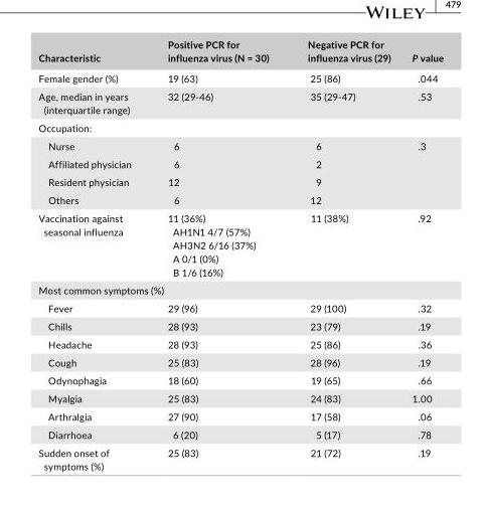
<table><thead><tr><td>Characteristic</td><td>Positive PCR for influenza virus (N = 30)</td><td>Negative PCR for influenza virus (29)</td><td>P value</td></tr></thead><tbody><tr><td>Female gender (%)</td><td>19 (63)</td><td>25 (86)</td><td>.044</td></tr><tr><td>Age, median in years (interquartile range)</td><td>32 (29- 46)</td><td>35 (29- 47)</td><td>.53</td></tr><tr><td colspan="4">Occupation:</td></tr><tr><td>Nurse</td><td>6</td><td>6</td><td rowspan="4">.3</td></tr><tr><td>Affiliated physician</td><td>6</td><td>2</td></tr><tr><td>Resident physician</td><td>12</td><td>9</td></tr><tr><td>Others</td><td>6</td><td>12</td></tr><tr><td>Vaccination against seasonal influenza</td><td>11 (36%) AH1N1 4/7 (57%) AH3N2 6/16 (37%) A 0/1 (0%) B 1/6 (16%)</td><td>11 (38%)</td><td>.92</td></tr><tr><td colspan="4">Most common symptoms (%)</td></tr><tr><td>Fever</td><td>29 (96)</td><td>29 (100)</td><td>.32</td></tr><tr><td>Chills</td><td>28 (93)</td><td>23 (79)</td><td>.19</td></tr><tr><td>Headache</td><td>28 (93)</td><td>25 (86)</td><td>.36</td></tr><tr><td>Cough</td><td>25 (83)</td><td>28 (96)</td><td>.19</td></tr><tr><td>Odynophagia</td><td>18 (60)</td><td>19 (65)</td><td>.66</td></tr><tr><td>Myalgia</td><td>25 (83)</td><td>24 (83)</td><td>1.00</td></tr><tr><td>Arthralgia</td><td>27 (90)</td><td>17 (58)</td><td>.06</td></tr><tr><td>Diarrhoea</td><td>6 (20)</td><td>5 (17)</td><td>.78</td></tr><tr><td>Sudden onset of symptoms (%)</td><td>25 (83)</td><td>21 (72)</td><td>.19</td></tr></tbody></table>